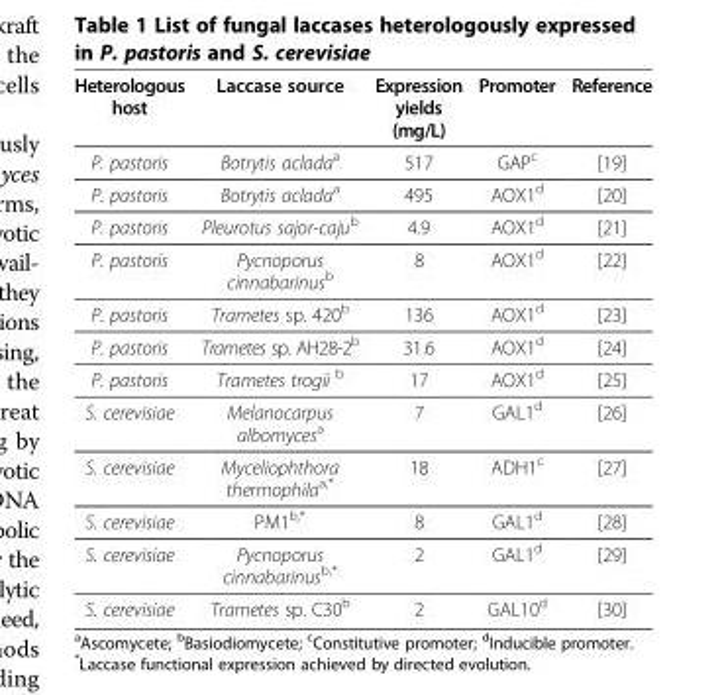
<table><thead><tr><td>Heterologous host</td><td>Laccase source</td><td>Expression yields (mg/L)</td><td>Promoter</td><td>Reference</td></tr></thead><tbody><tr><td>P. pastoris</td><td>Botrytis aclada<sup>a</sup></td><td>517</td><td>GAP<sup>c</sup></td><td>[19]</td></tr><tr><td>P. pastoris</td><td>Botrytis aclada<sup>a</sup></td><td>495</td><td>AOX1<sup>d</sup></td><td>[20]</td></tr><tr><td>P. pastoris</td><td>Pleurotus sajor-caju<sup>b</sup></td><td>4.9</td><td>AOX1<sup>d</sup></td><td>[21]</td></tr><tr><td>P. pastoris</td><td>Pycnoporus cinnabarinus<sup>b</sup></td><td>8</td><td>AOX1<sup>d</sup></td><td>[22]</td></tr><tr><td>P. pastoris</td><td>Trametes sp. 420<sup>b</sup></td><td>136</td><td>AOX1<sup>d</sup></td><td>[23]</td></tr><tr><td>P. pastoris</td><td>Trametes sp. AH28-2<sup>b</sup></td><td>31.6</td><td>AOX1<sup>d</sup></td><td>[24]</td></tr><tr><td>P. pastoris</td><td>Trametes trogii <sup>b</sup></td><td>17</td><td>AOX1<sup>d</sup></td><td>[25]</td></tr><tr><td>S. cerevisiae</td><td>Melanocarpus albomyces<sup>a</sup></td><td>7</td><td>GAL1<sup>d</sup></td><td>[26]</td></tr><tr><td>S. cerevisiae</td><td>Myceliophthora thermophila<sup>a,*</sup></td><td>18</td><td>ADH1<sup>c</sup></td><td>[27]</td></tr><tr><td>S. cerevisiae</td><td>PM1<sup>b,*</sup></td><td>8</td><td>GAL1<sup>d</sup></td><td>[28]</td></tr><tr><td>S. cerevisiae</td><td>Pycnoporus cinnabarinus<sup>b,*</sup></td><td>2</td><td>GAL1<sup>d</sup></td><td>[29]</td></tr><tr><td>S. cerevisiae</td><td>Trametes sp. C30<sup>b</sup></td><td>2</td><td>GAL10<sup>d</sup></td><td>[30]</td></tr></tbody></table>